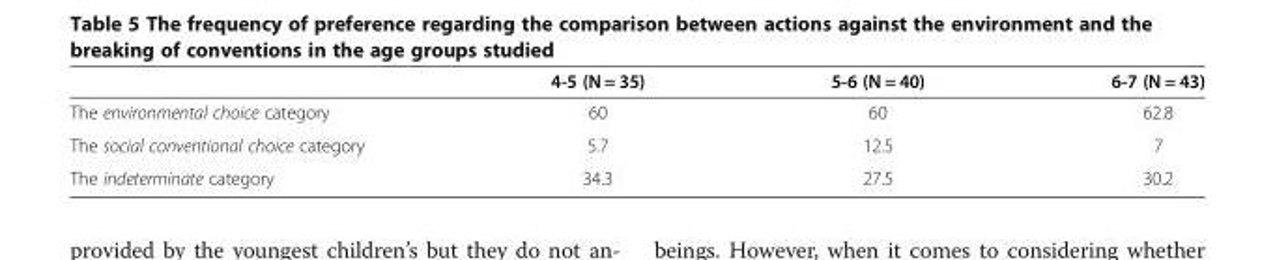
<table><thead><tr><td></td><td>4-5 (N = 35)</td><td>5-6 (N = 40)</td><td>6-7 (N = 43)</td></tr></thead><tbody><tr><td>The environmental choice category</td><td>60</td><td>60</td><td>62.8</td></tr><tr><td>The social conventional choice category</td><td>5.7</td><td>12.5</td><td>7</td></tr><tr><td>The indeterminate category</td><td>34.3</td><td>27.5</td><td>30.2</td></tr></tbody></table>